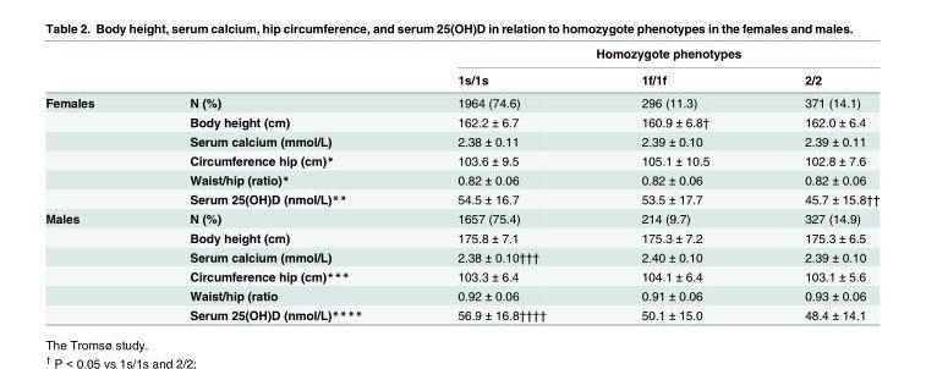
<table><thead><tr><td rowspan="2"></td><td rowspan="2"></td><td colspan="3">Homozygote phenotypes</td></tr><tr><td>1s/1s</td><td>1f/1f</td><td>2/2</td></tr></thead><tbody><tr><td rowspan="6">Females</td><td>N (%)</td><td>1964 (74.6)</td><td>296 (11.3)</td><td>371 (14.1)</td></tr><tr><td>Body height (cm)</td><td>162.2 ± 6.7</td><td>160.9 ± 6.8†</td><td>162.0 ± 6.4</td></tr><tr><td>Serum calcium (mmol/L)</td><td>2.38 ± 0.11</td><td>2.39 ± 0.10</td><td>2.39 ± 0.11</td></tr><tr><td>Circumference hip (cm)*</td><td>103.6 ± 9.5</td><td>105.1 ± 10.5</td><td>102.8 ± 7.6</td></tr><tr><td>Waist/hip (ratio)*</td><td>0.82 ± 0.06</td><td>0.82 ± 0.06</td><td>0.82 ± 0.06</td></tr><tr><td>Serum 25(OH)D (nmol/L)**</td><td>54.5 ± 16.7</td><td>53.5 ± 17.7</td><td>45.7 ± 15.8††</td></tr><tr><td rowspan="6">Males</td><td>N (%)</td><td>1657 (75.4)</td><td>214 (9.7)</td><td>327 (14.9)</td></tr><tr><td>Body height (cm)</td><td>175.8 ± 7.1</td><td>175.3 ± 7.2</td><td>175.3 ± 6.5</td></tr><tr><td>Serum calcium (mmol/L)</td><td>2.38 ± 0.10†††</td><td>2.40 ± 0.10</td><td>2.39 ± 0.10</td></tr><tr><td>Circumference hip (cm)***</td><td>103.3 ± 6.4</td><td>104.1 ± 6.4</td><td>103.1 ± 5.6</td></tr><tr><td>Waist/hip (ratio</td><td>0.92 ± 0.06</td><td>0.91 ± 0.06</td><td>0.93 ± 0.06</td></tr><tr><td>Serum 25(OH)D (nmol/L)****</td><td>56.9 ± 16.8††††</td><td>50.1 ± 15.0</td><td>48.4 ± 14.1</td></tr></tbody></table>